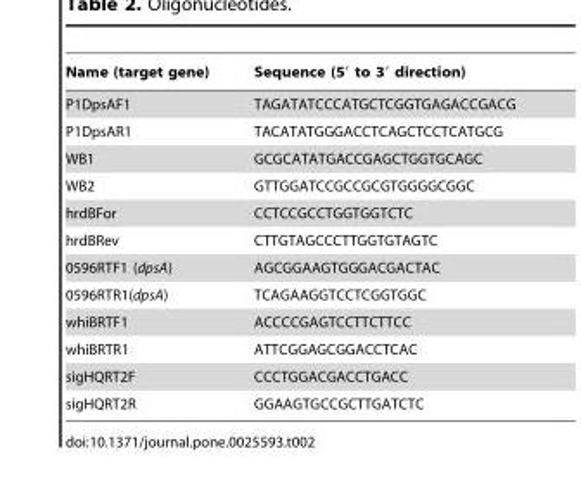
<table><thead><tr><td>Name (target gene)</td><td>Sequence (5′ to 3′ direction)</td></tr></thead><tbody><tr><td>P1DpsAF1</td><td>TAGATATCCCATGCTCGGTGAGACCGACG</td></tr><tr><td>P1DpsAR1</td><td>TACATATGGGACCTCAGCTCCTCATGCG</td></tr><tr><td>WB1</td><td>GCGCATATGACCGAGCTGGTGCAGC</td></tr><tr><td>WB2</td><td>GTTGGATCCGCCGCGTGGGGCGGC</td></tr><tr><td>hrdBFor</td><td>CCTCCGCCTGGTGGTCTC</td></tr><tr><td>hrdBRev</td><td>CTTGTAGCCCTTGGTGTAGTC</td></tr><tr><td>0596RTF1 (dpsA)</td><td>AGCGGAAGTGGGACGACTAC</td></tr><tr><td>0596RTR1(dpsA)</td><td>TCAGAAGGTCCTCGGTGGC</td></tr><tr><td>whiBRTF1</td><td>ACCCCGAGTCCTTCTTCC</td></tr><tr><td>whiBRTR1</td><td>ATTCGGAGCGGACCTCAC</td></tr><tr><td>sigHQRT2F</td><td>CCCTGGACGACCTGACC</td></tr><tr><td>sigHQRT2R</td><td>GGAAGTGCCGCTTGATCTC</td></tr></tbody></table>